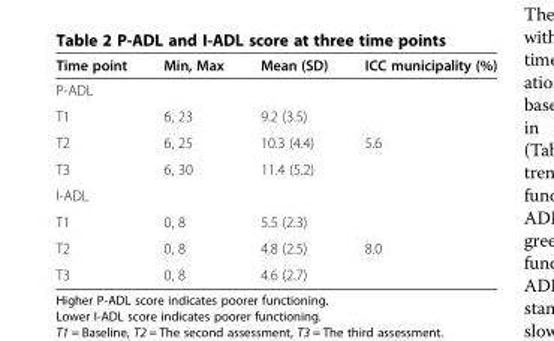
<table><thead><tr><td>Time point</td><td>Min, Max</td><td>Mean (SD)</td><td>ICC municipality (%)</td></tr></thead><tbody><tr><td colspan="4">P-ADL</td></tr><tr><td>T1</td><td>6, 23</td><td>9.2 (3.5)</td><td></td></tr><tr><td>T2</td><td>6, 25</td><td>10.3 (4.4)</td><td>5.6</td></tr><tr><td>T3</td><td>6, 30</td><td>11.4 (5.2)</td><td></td></tr><tr><td colspan="4">I-ADL</td></tr><tr><td>T1</td><td>0, 8</td><td>5.5 (2.3)</td><td></td></tr><tr><td>T2</td><td>0, 8</td><td>4.8 (2.5)</td><td>8.0</td></tr><tr><td>T3</td><td>0, 8</td><td>4.6 (2.7)</td><td></td></tr></tbody></table>